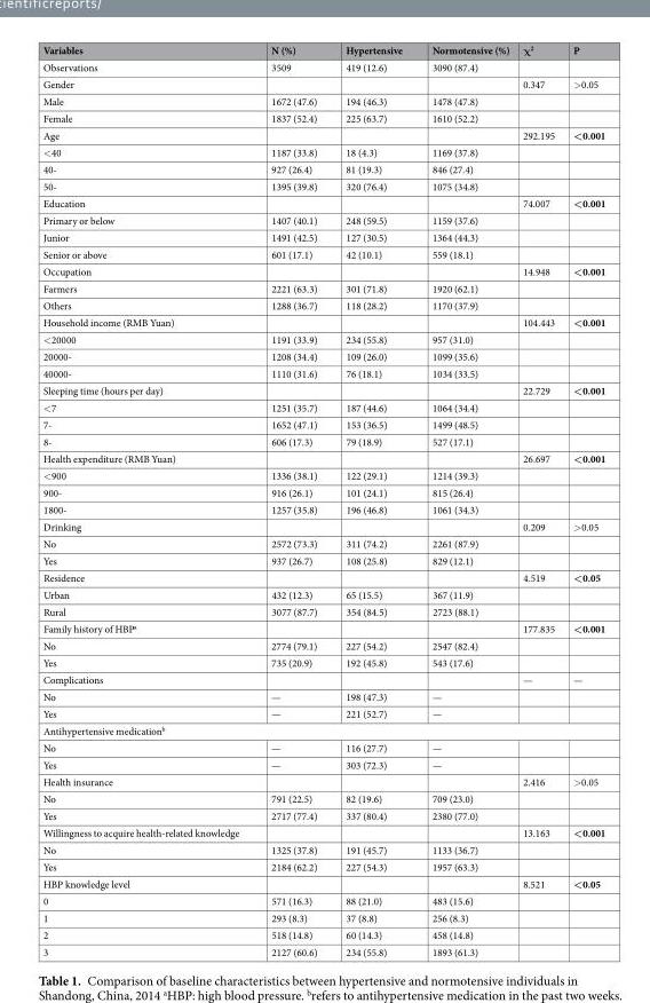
<table><thead><tr><td>Variables</td><td>N (%)</td><td>Hypertensive</td><td>Normotensive (%)</td><td>χ<sup>2</sup></td><td>P</td></tr></thead><tbody><tr><td>Observations</td><td>3509</td><td>419 (12.6)</td><td>3090 (87.4)</td><td></td><td></td></tr><tr><td>Gender</td><td></td><td></td><td></td><td>0.347</td><td>&gt;0.05</td></tr><tr><td>Male</td><td>1672 (47.6)</td><td>194 (46.3)</td><td>1478 (47.8)</td><td></td><td></td></tr><tr><td>Female</td><td>1837 (52.4)</td><td>225 (63.7)</td><td>1610 (52.2)</td><td></td><td></td></tr><tr><td>Age</td><td></td><td></td><td></td><td>292.195</td><td>&lt;0.001</td></tr><tr><td>&lt;40</td><td>1187 (33.8)</td><td>18 (4.3)</td><td>1169 (37.8)</td><td></td><td></td></tr><tr><td>40-</td><td>927 (26.4)</td><td>81 (19.3)</td><td>846 (27.4)</td><td></td><td></td></tr><tr><td>50-</td><td>1395 (39.8)</td><td>320 (76.4)</td><td>1075 (34.8)</td><td></td><td></td></tr><tr><td>Education</td><td></td><td></td><td></td><td>74.007</td><td>&lt;0.001</td></tr><tr><td>Primary or below</td><td>1407 (40.1)</td><td>248 (59.5)</td><td>1159 (37.6)</td><td></td><td></td></tr><tr><td>Junior</td><td>1491 (42.5)</td><td>127 (30.5)</td><td>1364 (44.3)</td><td></td><td></td></tr><tr><td>Senior or above</td><td>601 (17.1)</td><td>42 (10.1)</td><td>559 (18.1)</td><td></td><td></td></tr><tr><td>Occupation</td><td></td><td></td><td></td><td>14.948</td><td>&lt;0.001</td></tr><tr><td>Farmers</td><td>2221 (63.3)</td><td>301 (71.8)</td><td>1920 (62.1)</td><td></td><td></td></tr><tr><td>Others</td><td>1288 (36.7)</td><td>118 (28.2)</td><td>1170 (37.9)</td><td></td><td></td></tr><tr><td>Household income (RMB Yuan)</td><td></td><td></td><td></td><td>104.443</td><td>&lt;0.001</td></tr><tr><td>&lt;20000</td><td>1191 (33.9)</td><td>234 (55.8)</td><td>957 (31.0)</td><td></td><td></td></tr><tr><td>20000-</td><td>1208 (34.4)</td><td>109 (26.0)</td><td>1099 (35.6)</td><td></td><td></td></tr><tr><td>40000-</td><td>1110 (31.6)</td><td>76 (18.1)</td><td>1034 (33.5)</td><td></td><td></td></tr><tr><td>Sleeping time (hours per day)</td><td></td><td></td><td></td><td>22.729</td><td>&lt;0.001</td></tr><tr><td>&lt;7</td><td>1251 (35.7)</td><td>187 (44.6)</td><td>1064 (34.4)</td><td></td><td></td></tr><tr><td>7-</td><td>1652 (47.1)</td><td>153 (36.5)</td><td>1499 (48.5)</td><td></td><td></td></tr><tr><td>8-</td><td>606 (17.3)</td><td>79 (18.9)</td><td>527 (17.1)</td><td></td><td></td></tr><tr><td>Health expenditure (RMB Yuan)</td><td></td><td></td><td></td><td>26.697</td><td>&lt;0.001</td></tr><tr><td>&lt;900</td><td>1336 (38.1)</td><td>122 (29.1)</td><td>1214 (39.3)</td><td></td><td></td></tr><tr><td>900-</td><td>916 (26.1)</td><td>101 (24.1)</td><td>815 (26.4)</td><td></td><td></td></tr><tr><td>1800-</td><td>1257 (35.8)</td><td>196 (46.8)</td><td>1061 (34.3)</td><td></td><td></td></tr><tr><td>Drinking</td><td></td><td></td><td></td><td>0.209</td><td>&gt;0.05</td></tr><tr><td>No</td><td>2572 (73.3)</td><td>311 (74.2)</td><td>2261 (87.9)</td><td></td><td></td></tr><tr><td>Yes</td><td>937 (26.7)</td><td>108 (25.8)</td><td>829 (12.1)</td><td></td><td></td></tr><tr><td>Residence</td><td></td><td></td><td></td><td>4.519</td><td>&lt;0.05</td></tr><tr><td>Urban</td><td>432 (12.3)</td><td>65 (15.5)</td><td>367 (11.9)</td><td></td><td></td></tr><tr><td>Rural</td><td>3077 (87.7)</td><td>354 (84.5)</td><td>2723 (88.1)</td><td></td><td></td></tr><tr><td>Family history of HBP<sup>a</sup></td><td></td><td></td><td></td><td>177.835</td><td>&lt;0.001</td></tr><tr><td>No</td><td>2774 (79.1)</td><td>227 (54.2)</td><td>2547 (82.4)</td><td></td><td></td></tr><tr><td>Yes</td><td>735 (20.9)</td><td>192 (45.8)</td><td>543 (17.6)</td><td></td><td></td></tr><tr><td>Complications</td><td></td><td></td><td></td><td>—</td><td>—</td></tr><tr><td>No</td><td>—</td><td>198 (47.3)</td><td>—</td><td></td><td></td></tr><tr><td>Yes</td><td>—</td><td>221 (52.7)</td><td>—</td><td></td><td></td></tr><tr><td colspan="6">Antihypertensive medication<sup>b</sup></td></tr><tr><td>No</td><td>—</td><td>116 (27.7)</td><td>—</td><td></td><td></td></tr><tr><td>Yes</td><td>—</td><td>303 (72.3)</td><td>—</td><td></td><td></td></tr><tr><td>Health insurance</td><td></td><td></td><td></td><td>2.416</td><td>&gt;0.05</td></tr><tr><td>No</td><td>791 (22.5)</td><td>82 (19.6)</td><td>709 (23.0)</td><td></td><td></td></tr><tr><td>Yes</td><td>2717 (77.4)</td><td>337 (80.4)</td><td>2380 (77.0)</td><td></td><td></td></tr><tr><td>Willingness to acquire health-related knowledge</td><td></td><td></td><td></td><td>13.163</td><td>&lt;0.001</td></tr><tr><td>No</td><td>1325 (37.8)</td><td>191 (45.7)</td><td>1133 (36.7)</td><td></td><td></td></tr><tr><td>Yes</td><td>2184 (62.2)</td><td>227 (54.3)</td><td>1957 (63.3)</td><td></td><td></td></tr><tr><td>HBP knowledge level</td><td></td><td></td><td></td><td>8.521</td><td>&lt;0.05</td></tr><tr><td>0</td><td>571 (16.3)</td><td>88 (21.0)</td><td>483 (15.6)</td><td></td><td></td></tr><tr><td>1</td><td>293 (8.3)</td><td>37 (8.8)</td><td>256 (8.3)</td><td></td><td></td></tr><tr><td>2</td><td>518 (14.8)</td><td>60 (14.3)</td><td>458 (14.8)</td><td></td><td></td></tr><tr><td>3</td><td>2127 (60.6)</td><td>234 (55.8)</td><td>1893 (61.3)</td><td></td><td></td></tr></tbody></table>